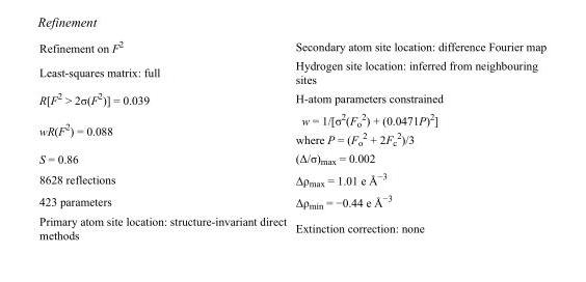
<table><tbody><tr><td>Refinement on F<sup>2</sup></td><td>Secondary atom site location: difference Fourier map</td></tr><tr><td>Least-squares matrix: full</td><td>Hydrogen site location: inferred from neighbouring sites</td></tr><tr><td>R[F<sup>2</sup> &gt; 2σ(F<sup>2</sup>)] = 0.039</td><td>H-atom parameters constrained</td></tr><tr><td>wR(F<sup>2</sup>) = 0.088</td><td>w = 1/[σ<sup>2</sup>(F<sub>o</sub> <sup>2</sup>) + (0.0471P)<sup>2</sup>] where P = (F<sub>o</sub> <sup>2</sup> + 2F<sub>c</sub> <sup>2</sup>)/3</td></tr><tr><td>S = 0.86</td><td>(Δ/σ)<sub>max</sub> = 0.002</td></tr><tr><td>8628 reflections</td><td>Δρ<sub>max</sub> = 1.01 e Å<sup>−3</sup></td></tr><tr><td>423 parameters</td><td>Δρ<sub>min</sub> = −0.44 e Å<sup>−3</sup></td></tr><tr><td>Primary atom site location: structure-invariant direct methods</td><td>Extinction correction: none</td></tr></tbody></table>